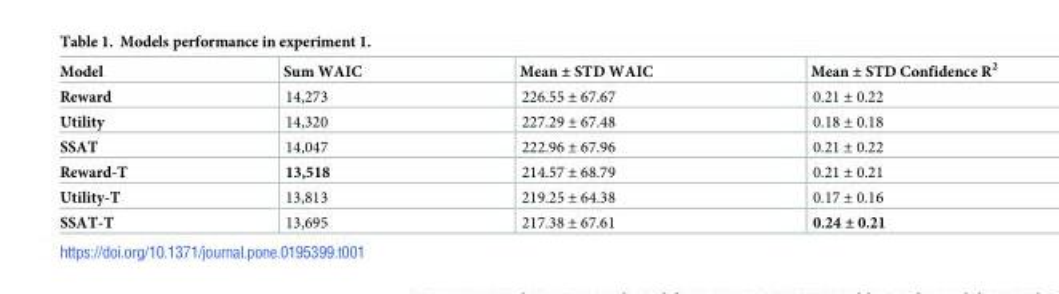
<table><thead><tr><td>Model</td><td>Sum WAIC</td><td>Mean ± STD WAIC</td><td>Mean ± STD Confidence R<sup>2</sup></td></tr></thead><tbody><tr><td>Reward</td><td>14,273</td><td>226.55 ± 67.67</td><td>0.21 ± 0.22</td></tr><tr><td>Utility</td><td>14,320</td><td>227.29 ± 67.48</td><td>0.18 ± 0.18</td></tr><tr><td>SSAT</td><td>14,047</td><td>222.96 ± 67.96</td><td>0.21 ± 0.22</td></tr><tr><td>Reward-T</td><td>13,518</td><td>214.57 ± 68.79</td><td>0.21 ± 0.21</td></tr><tr><td>Utility-T</td><td>13,813</td><td>219.25 ± 64.38</td><td>0.17 ± 0.16</td></tr><tr><td>SSAT-T</td><td>13,695</td><td>217.38 ± 67.61</td><td>0.24 ± 0.21</td></tr></tbody></table>